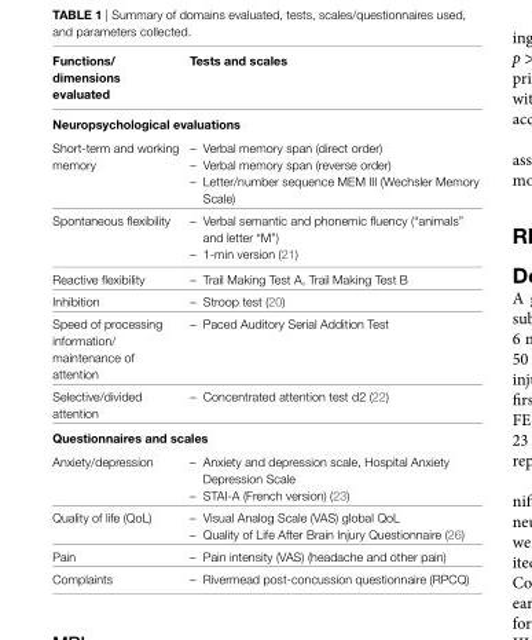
<table><thead><tr><td>Functions/ dimensions evaluated</td><td>Tests and scales</td></tr></thead><tbody><tr><td colspan="2">neuropsychological evaluations</td></tr><tr><td>Short-term and working memory</td><td>– Verbal memory span (direct order) – Verbal memory span (reverse order) – Letter/number sequence MEM III (Wechsler Memory Scale)</td></tr><tr><td>Spontaneous flexibility</td><td>– Verbal semantic and phonemic fluency (“animals” and letter “M”) – 1-min version (21)</td></tr><tr><td>Reactive flexibility</td><td>– Trail Making Test A, Trail Making Test B</td></tr><tr><td>Inhibition</td><td>– Stroop test (20)</td></tr><tr><td>Speed of processing information/ maintenance of attention</td><td>– Paced Auditory Serial Addition Test</td></tr><tr><td>Selective/divided attention</td><td>– Concentrated attention test d2 (22)</td></tr><tr><td colspan="2">Questionnaires and scales</td></tr><tr><td>Anxiety/depression</td><td>– Anxiety and depression scale, Hospital Anxiety Depression Scale – STAI-A (French version) (23)</td></tr><tr><td>Quality of life (QoL)</td><td>– Visual Analog Scale (VAS) global QoL – Quality of Life After Brain Injury Questionnaire (26)</td></tr><tr><td>Pain</td><td>– Pain intensity (VAS) (headache and other pain)</td></tr><tr><td>Complaints</td><td>– Rivermead post-concussion questionnaire (RPCQ)</td></tr></tbody></table>